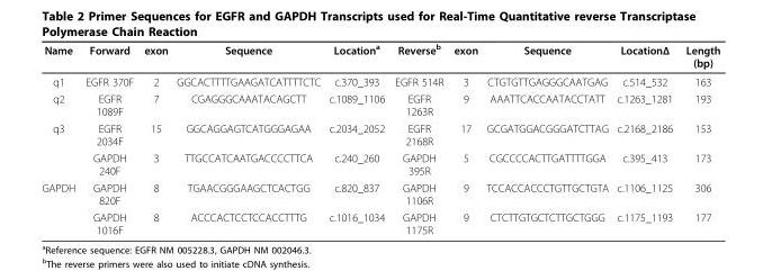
<table><thead><tr><td>Name</td><td>Forward</td><td>exon</td><td>Sequence</td><td>Location<sup>a</sup></td><td>Reverse<sup>b</sup></td><td>exon</td><td>Sequence</td><td>LocationΔ</td><td>Length (bp)</td></tr></thead><tbody><tr><td>q1</td><td>EGFR 370F</td><td>2</td><td>GGCACTTTTGAAGATCATTTTCTC</td><td>c.370_393</td><td>EGFR 514R</td><td>3</td><td>CTGTGTTGAGGGCAATGAG</td><td>c.514_532</td><td>163</td></tr><tr><td>q2</td><td>EGFR 1089F</td><td>7</td><td>CGAGGGCAAATACAGCTT</td><td>c.1089_1106</td><td>EGFR 1263R</td><td>9</td><td>AAATTCACCAATACCTATT</td><td>c.1263_1281</td><td>193</td></tr><tr><td rowspan="2">q3</td><td>EGFR 2034F</td><td>15</td><td>GGCAGGAGTCATGGGAGAA</td><td>c.2034_2052</td><td>EGFR 2168R</td><td>17</td><td>GCGATGGACGGGATCTTAG</td><td>c.2168_2186</td><td>153</td></tr><tr><td>GAPDH 240F</td><td>3</td><td>TTGCCATCAATGACCCCTTCA</td><td>c.240_260</td><td>GAPDH 395R</td><td>5</td><td>CGCCCCACTTGATTTTGGA</td><td>c.395_413</td><td>173</td></tr><tr><td rowspan="2">GAPDH</td><td>GAPDH 820F</td><td>8</td><td>TGAACGGGAAGCTCACTGG</td><td>c.820_837</td><td>GAPDH 1106R</td><td>9</td><td>TCCACCACCCTGTTGCTGTA</td><td>c.1106_1125</td><td>306</td></tr><tr><td>GAPDH 1016F</td><td>8</td><td>ACCCACTCCTCCACCTTTG</td><td>c.1016_1034</td><td>GAPDH 1175R</td><td>9</td><td>CTCTTGTGCTCTTGCTGGG</td><td>c.1175_1193</td><td>177</td></tr></tbody></table>